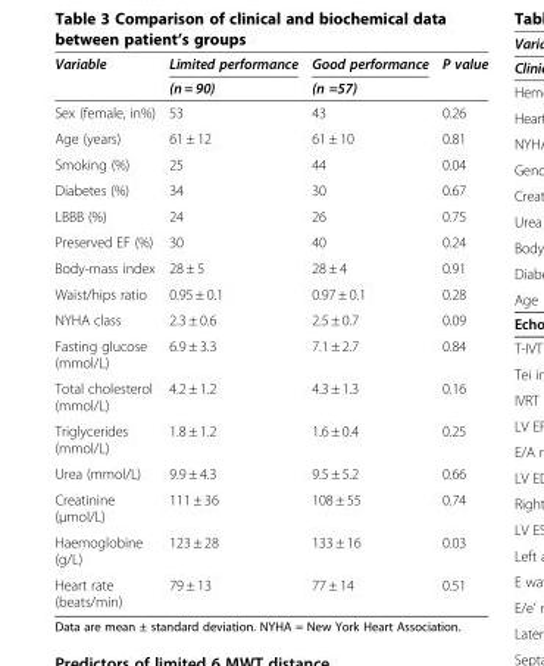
<table><thead><tr><td rowspan="2">Variable</td><td rowspan="2">Limited performance (n = 90)</td><td rowspan="2">Good performance (n =57)</td><td rowspan="2">P value</td></tr><tr></tr></thead><tbody><tr><td>Sex (female, in%)</td><td>53</td><td>43</td><td>0.26</td></tr><tr><td>Age (years)</td><td>61 ± 12</td><td>61 ± 10</td><td>0.81</td></tr><tr><td>Smoking (%)</td><td>25</td><td>44</td><td>0.04</td></tr><tr><td>Diabetes (%)</td><td>34</td><td>30</td><td>0.67</td></tr><tr><td>LBBB (%)</td><td>24</td><td>26</td><td>0.75</td></tr><tr><td>Preserved EF (%)</td><td>30</td><td>40</td><td>0.24</td></tr><tr><td>Body-mass index</td><td>28 ± 5</td><td>28 ± 4</td><td>0.91</td></tr><tr><td>Waist/hips ratio</td><td>0.95 ± 0.1</td><td>0.97 ± 0.1</td><td>0.28</td></tr><tr><td>NYHA class</td><td>2.3 ± 0.6</td><td>2.5 ± 0.7</td><td>0.09</td></tr><tr><td>Fasting glucose (mmol/L)</td><td>6.9 ± 3.3</td><td>7.1 ± 2.7</td><td>0.84</td></tr><tr><td>Total cholesterol (mmol/L)</td><td>4.2 ± 1.2</td><td>4.3 ± 1.3</td><td>0.16</td></tr><tr><td>Triglycerides (mmol/L)</td><td>1.8 ± 1.2</td><td>1.6 ± 0.4</td><td>0.25</td></tr><tr><td>Urea (mmol/L)</td><td>9.9 ± 4.3</td><td>9.5 ± 5.2</td><td>0.66</td></tr><tr><td>Creatinine (μmol/L)</td><td>111 ± 36</td><td>108 ± 55</td><td>0.74</td></tr><tr><td>Haemoglobine (g/L)</td><td>123 ± 28</td><td>133 ± 16</td><td>0.03</td></tr><tr><td>Heart rate (beats/min)</td><td>79 ± 13</td><td>77 ± 14</td><td>0.51</td></tr></tbody></table>